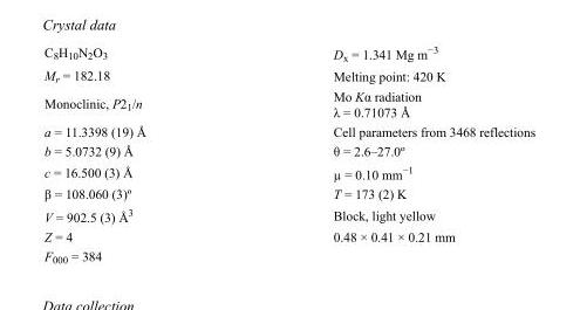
<table><tbody><tr><td>C<sub>8</sub>H<sub>10</sub>N<sub>2</sub>O<sub>3</sub></td><td>D<sub>x</sub> = 1.341 Mg m<sup>−3</sup></td></tr><tr><td>M<sub>r</sub> = 182.18</td><td>Melting point: 420 K</td></tr><tr><td>Monoclinic, P2<sub>1</sub>/n</td><td>Mo Kα radiation λ = 0.71073 Å</td></tr><tr><td>a = 11.3398 (19) Å</td><td>Cell parameters from 3468 reflections</td></tr><tr><td>b = 5.0732 (9) Å</td><td>θ = 2.6–27.0º</td></tr><tr><td>c = 16.500 (3) Å</td><td>µ = 0.10 mm<sup>−1</sup></td></tr><tr><td>β = 108.060 (3)º</td><td>T = 173 (2) K</td></tr><tr><td>V = 902.5 (3) Å<sup>3</sup></td><td>Block, light yellow</td></tr><tr><td>Z = 4</td><td>0.48 × 0.41 × 0.21 mm</td></tr><tr><td>F000 = 384</td><td></td></tr></tbody></table>